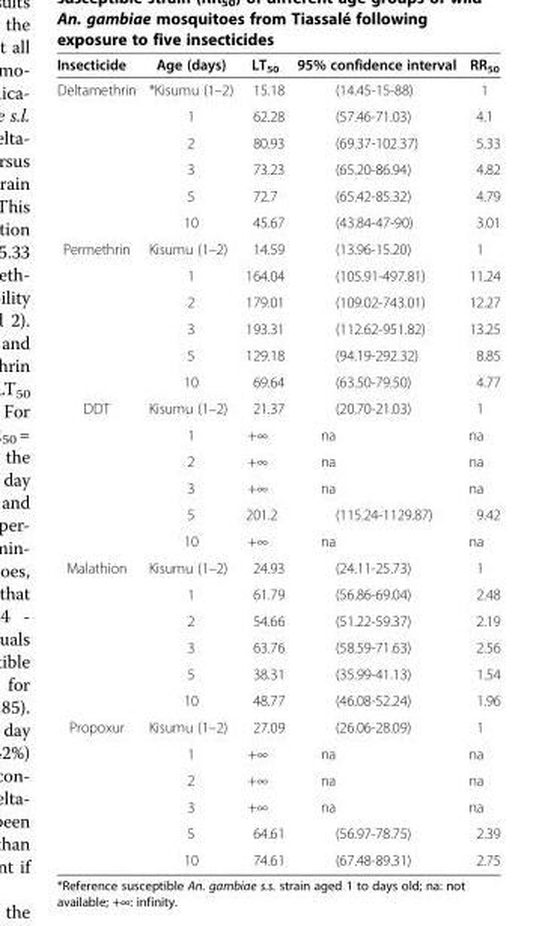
<table><thead><tr><td>Insecticide</td><td>Age (days)</td><td>LT<sub>50</sub></td><td>95% confidence interval</td><td>RR<sub>50</sub></td></tr></thead><tbody><tr><td rowspan="6">Deltamethrin</td><td>*Kisumu (1–2)</td><td>15.18</td><td>(14.45-15-88)</td><td>1</td></tr><tr><td>1</td><td>62.28</td><td>(57.46-71.03)</td><td>4.1</td></tr><tr><td>2</td><td>80.93</td><td>(69.37-102.37)</td><td>5.33</td></tr><tr><td>3</td><td>73.23</td><td>(65.20-86.94)</td><td>4.82</td></tr><tr><td>5</td><td>72.7</td><td>(65.42-85.32)</td><td>4.79</td></tr><tr><td>10</td><td>45.67</td><td>(43.84-47-90)</td><td>3.01</td></tr><tr><td rowspan="6">Permethrin</td><td>Kisumu (1–2)</td><td>14.59</td><td>(13.96-15.20)</td><td>1</td></tr><tr><td>1</td><td>164.04</td><td>(105.91-497.81)</td><td>11.24</td></tr><tr><td>2</td><td>179.01</td><td>(109.02-743.01)</td><td>12.27</td></tr><tr><td>3</td><td>193.31</td><td>(112.62-951.82)</td><td>13.25</td></tr><tr><td>5</td><td>129.18</td><td>(94.19-292.32)</td><td>8.85</td></tr><tr><td>10</td><td>69.64</td><td>(63.50-79.50)</td><td>4.77</td></tr><tr><td rowspan="6">DDT</td><td>Kisumu (1–2)</td><td>21.37</td><td>(20.70-21.03)</td><td>1</td></tr><tr><td>1</td><td>+∞</td><td>na</td><td>na</td></tr><tr><td>2</td><td>+∞</td><td>na</td><td>na</td></tr><tr><td>3</td><td>+∞</td><td>na</td><td>na</td></tr><tr><td>5</td><td>201.2</td><td>(115.24-1129.87)</td><td>9.42</td></tr><tr><td>10</td><td>+∞</td><td>na</td><td>na</td></tr><tr><td rowspan="6">Malathion</td><td>Kisumu (1–2)</td><td>24.93</td><td>(24.11-25.73)</td><td>1</td></tr><tr><td>1</td><td>61.79</td><td>(56.86-69.04)</td><td>2.48</td></tr><tr><td>2</td><td>54.66</td><td>(51.22-59.37)</td><td>2.19</td></tr><tr><td>3</td><td>63.76</td><td>(58.59-71.63)</td><td>2.56</td></tr><tr><td>5</td><td>38.31</td><td>(35.99-41.13)</td><td>1.54</td></tr><tr><td>10</td><td>48.77</td><td>(46.08-52.24)</td><td>1.96</td></tr><tr><td rowspan="6">Propoxur</td><td>Kisumu (1–2)</td><td>27.09</td><td>(26.06-28.09)</td><td>1</td></tr><tr><td>1</td><td>+∞</td><td>na</td><td>na</td></tr><tr><td>2</td><td>+∞</td><td>na</td><td>na</td></tr><tr><td>3</td><td>+∞</td><td>na</td><td>na</td></tr><tr><td>5</td><td>64.61</td><td>(56.97-78.75)</td><td>2.39</td></tr><tr><td>10</td><td>74.61</td><td>(67.48-89.31)</td><td>2.75</td></tr></tbody></table>